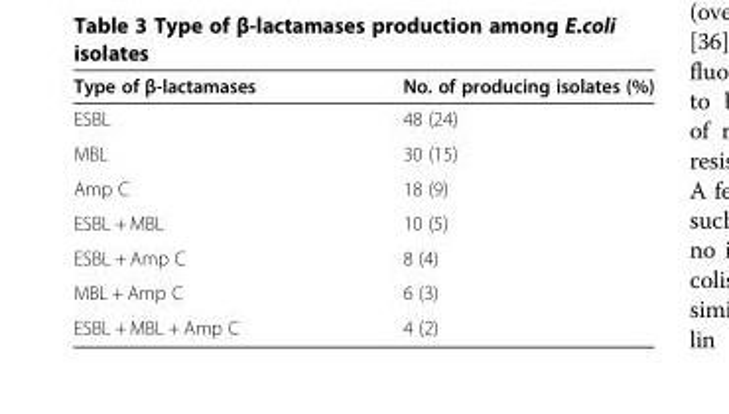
<table><thead><tr><td>Type of β-lactamases</td><td>No. of producing isolates (%)</td></tr></thead><tbody><tr><td>ESBL</td><td>48 (24)</td></tr><tr><td>MBL</td><td>30 (15)</td></tr><tr><td>Amp C</td><td>18 (9)</td></tr><tr><td>ESBL + MBL</td><td>10 (5)</td></tr><tr><td>ESBL + Amp C</td><td>8 (4)</td></tr><tr><td>MBL + Amp C</td><td>6 (3)</td></tr><tr><td>ESBL + MBL + Amp C</td><td>4 (2)</td></tr></tbody></table>